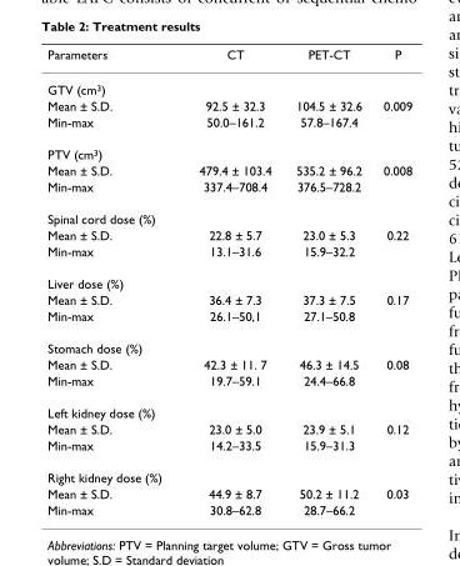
<table><thead><tr><td>Parameters</td><td>CT</td><td>PET-CT</td><td>P</td></tr></thead><tbody><tr><td colspan="4">GTV (cm<sup>3</sup>)</td></tr><tr><td>Mean ± S.D.</td><td>92.5 ± 32.3</td><td>104.5 ± 32.6</td><td>0.009</td></tr><tr><td>Min-max</td><td>50.0–161.2</td><td>57.8–167.4</td><td></td></tr><tr><td colspan="4">PTV (cm<sup>3</sup>)</td></tr><tr><td>Mean ± S.D.</td><td>479.4 ± 103.4</td><td>535.2 ± 96.2</td><td>0.008</td></tr><tr><td>Min-max</td><td>337.4–708.4</td><td>376.5–728.2</td><td></td></tr><tr><td colspan="4">Spinal cord dose (%)</td></tr><tr><td>Mean ± S.D.</td><td>22.8 ± 5.7</td><td>23.0 ± 5.3</td><td>0.22</td></tr><tr><td>Min-max</td><td>13.1–31.6</td><td>15.9–32.2</td><td></td></tr><tr><td colspan="4">Liver dose (%)</td></tr><tr><td>Mean ± S.D.</td><td>36.4 ± 7.3</td><td>37.3 ± 7.5</td><td>0.17</td></tr><tr><td>Min-max</td><td>26.1–50,1</td><td>27.1–50.8</td><td></td></tr><tr><td colspan="4">Stomach dose (%)</td></tr><tr><td>Mean ± S.D.</td><td>42.3 ± 11. 7</td><td>46.3 ± 14.5</td><td>0.08</td></tr><tr><td>Min-max</td><td>19.7–59.1</td><td>24.4–66.8</td><td></td></tr><tr><td colspan="4">Left kidney dose (%)</td></tr><tr><td>Mean ± S.D.</td><td>23.0 ± 5.0</td><td>23.9 ± 5.1</td><td>0.12</td></tr><tr><td>Min-max</td><td>14.2–33.5</td><td>15.9–31.3</td><td></td></tr><tr><td colspan="4">Right kidney dose (%)</td></tr><tr><td>Mean ± S.D.</td><td>44.9 ± 8.7</td><td>50.2 ± 11.2</td><td>0.03</td></tr><tr><td>Min-max</td><td>30.8–62.8</td><td>28.7–66.2</td><td></td></tr></tbody></table>